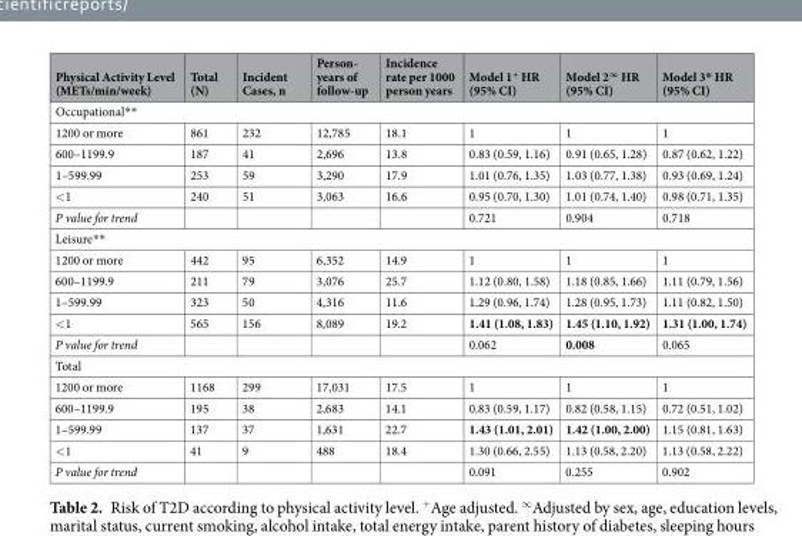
<table><thead><tr><td>Physical Activity Level (METs/min/week)</td><td>Total (N)</td><td>Incident Cases, n</td><td>Person- years of follow-up</td><td>Incidence rate per 1000 person years</td><td>Model 1<sup>+</sup> HR (95% CI)</td><td>Model 2<sup>∞</sup> HR (95% CI)</td><td>Model 3* HR (95% CI)</td></tr></thead><tbody><tr><td colspan="8">Occupational**</td></tr><tr><td>1200 or more</td><td>861</td><td>232</td><td>12,785</td><td>18.1</td><td>1</td><td>1</td><td>1</td></tr><tr><td>600–1199.9</td><td>187</td><td>41</td><td>2,696</td><td>13.8</td><td>0.83 (0.59, 1.16)</td><td>0.91 (0.65, 1.28)</td><td>0.87 (0.62, 1.22)</td></tr><tr><td>1–599.99</td><td>253</td><td>59</td><td>3,290</td><td>17.9</td><td>1.01 (0.76, 1.35)</td><td>1.03 (0.77, 1.38)</td><td>0.93 (0.69, 1.24)</td></tr><tr><td>&lt;1</td><td>240</td><td>51</td><td>3,063</td><td>16.6</td><td>0.95 (0.70, 1.30)</td><td>1.01 (0.74, 1.40)</td><td>0.98 (0.71, 1.35)</td></tr><tr><td>P value for trend</td><td></td><td></td><td></td><td></td><td>0.721</td><td>0.904</td><td>0.718</td></tr><tr><td colspan="8">Leisure**</td></tr><tr><td>1200 or more</td><td>442</td><td>95</td><td>6,352</td><td>14.9</td><td>1</td><td>1</td><td>1</td></tr><tr><td>600–1199.9</td><td>211</td><td>79</td><td>3,076</td><td>25.7</td><td>1.12 (0.80, 1.58)</td><td>1.18 (0.85, 1.66)</td><td>1.11 (0.79, 1.56)</td></tr><tr><td>1–599.99</td><td>323</td><td>50</td><td>4,316</td><td>11.6</td><td>1.29 (0.96, 1.74)</td><td>1.28 (0.95, 1.73)</td><td>1.11 (0.82, 1.50)</td></tr><tr><td>&lt;1</td><td>565</td><td>156</td><td>8,089</td><td>19.2</td><td>1.41 (1.08, 1.83)</td><td>1.45 (1.10, 1.92)</td><td>1.31 (1.00, 1.74)</td></tr><tr><td>P value for trend</td><td></td><td></td><td></td><td></td><td>0.062</td><td>0.008</td><td>0.065</td></tr><tr><td colspan="8">Total</td></tr><tr><td>1200 or more</td><td>1168</td><td>299</td><td>17,031</td><td>17.5</td><td>1</td><td>1</td><td>1</td></tr><tr><td>600–1199.9</td><td>195</td><td>38</td><td>2,683</td><td>14.1</td><td>0.83 (0.59, 1.17)</td><td>0.82 (0.58, 1.15)</td><td>0.72 (0.51, 1.02)</td></tr><tr><td>1–599.99</td><td>137</td><td>37</td><td>1,631</td><td>22.7</td><td>1.43 (1.01, 2.01)</td><td>1.42 (1.00, 2.00)</td><td>1.15 (0.81, 1.63)</td></tr><tr><td>&lt;1</td><td>41</td><td>9</td><td>488</td><td>18.4</td><td>1.30 (0.66, 2.55)</td><td>1.13 (0.58, 2.20)</td><td>1.13 (0.58, 2.22)</td></tr><tr><td>P value for trend</td><td></td><td></td><td></td><td></td><td>0.091</td><td>0.255</td><td>0.902</td></tr></tbody></table>